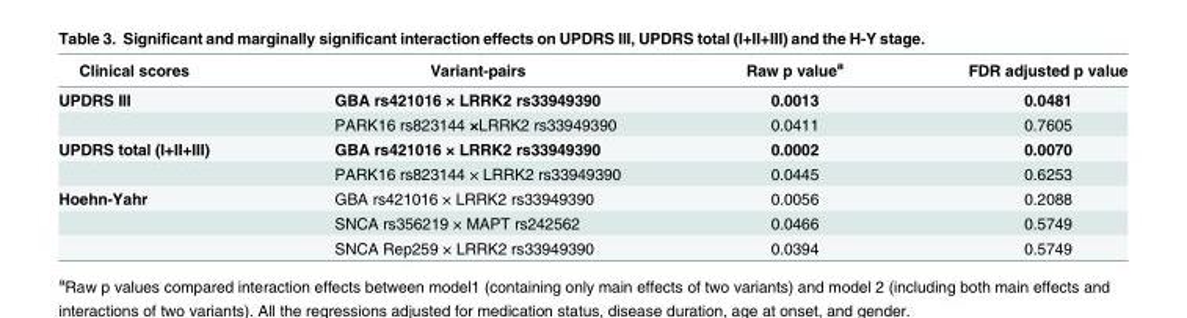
<table><thead><tr><td>Clinical scores</td><td>Variant-pairs</td><td>Raw p value<sup>a</sup></td><td>FDR adjusted p value</td></tr></thead><tbody><tr><td rowspan="2">UPDRS III</td><td>GBA rs421016 × LRRK2 rs33949390</td><td>0.0013</td><td>0.0481</td></tr><tr><td>PARK16 rs823144 ×LRRK2 rs33949390</td><td>0.0411</td><td>0.7605</td></tr><tr><td rowspan="2">UPDRS total (I+II+III)</td><td>GBA rs421016 × LRRK2 rs33949390</td><td>0.0002</td><td>0.0070</td></tr><tr><td>PARK16 rs823144 × LRRK2 rs33949390</td><td>0.0445</td><td>0.6253</td></tr><tr><td rowspan="3">Hoehn-Yahr</td><td>GBA rs421016 × LRRK2 rs33949390</td><td>0.0056</td><td>0.2088</td></tr><tr><td>SNCA rs356219 × MAPT rs242562</td><td>0.0466</td><td>0.5749</td></tr><tr><td>SNCA Rep259 × LRRK2 rs33949390</td><td>0.0394</td><td>0.5749</td></tr></tbody></table>